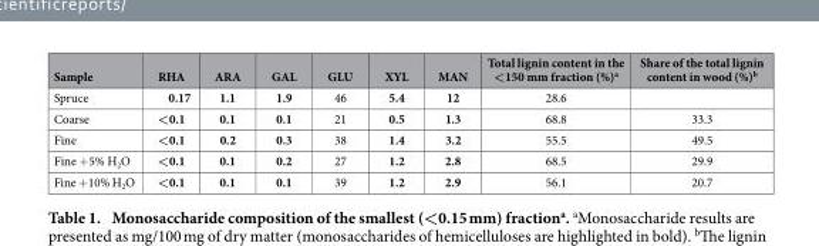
<table><thead><tr><td>Sample</td><td>RHA</td><td>ARA</td><td>GAL</td><td>GLU</td><td>XYL</td><td>MAN</td><td>Total lignin content in the &lt;150 mm fraction (%)<sup>a</sup></td><td>Share of the total lignin content in wood (%)<sup>b</sup></td></tr></thead><tbody><tr><td>Spruce</td><td>0.17</td><td>1.1</td><td>1.9</td><td>46</td><td>5.4</td><td>12</td><td>28.6</td><td></td></tr><tr><td>Coarse</td><td>&lt;0.1</td><td>0.1</td><td>0.1</td><td>21</td><td>0.5</td><td>1.3</td><td>68.8</td><td>33.3</td></tr><tr><td>Fine</td><td>&lt;0.1</td><td>0.2</td><td>0.3</td><td>38</td><td>1.4</td><td>3.2</td><td>55.5</td><td>49.5</td></tr><tr><td>Fine +5% H<sub>2</sub>O</td><td>&lt;0.1</td><td>0.1</td><td>0.2</td><td>27</td><td>1.2</td><td>2.8</td><td>68.5</td><td>29.9</td></tr><tr><td>Fine +10% H<sub>2</sub>O</td><td>&lt;0.1</td><td>0.1</td><td>0.1</td><td>39</td><td>1.2</td><td>2.9</td><td>56.1</td><td>20.7</td></tr></tbody></table>